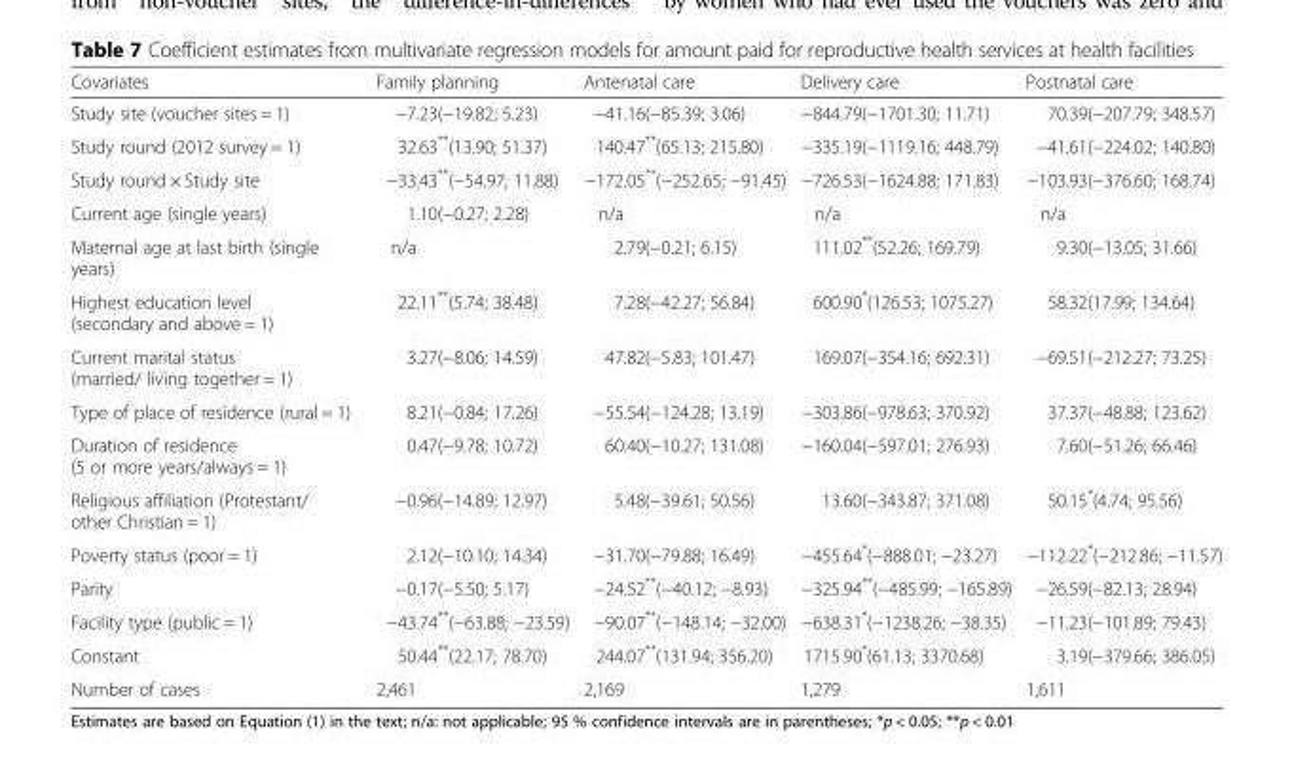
<table><thead><tr><td>Covariates</td><td>Family planning</td><td>Antenatal care</td><td>Delivery care</td><td>Postnatal care</td></tr></thead><tbody><tr><td>Study site (voucher sites = 1)</td><td>−7.23(−19.82; 5.23)</td><td>−41.16(−85.39; 3.06)</td><td>−844.79(−1701.30; 11.71)</td><td>70.39(−207.79; 348.57)</td></tr><tr><td>Study round (2012 survey = 1)</td><td>32.63**(13.90; 51.37)</td><td>140.47**(65.13; 215.80)</td><td>−335.19(−1119.16; 448.79)</td><td>−41.61(−224.02; 140.80)</td></tr><tr><td>Study round × Study site</td><td>−33.43**(−54.97; 11.88)</td><td>−172.05**(−252.65; −91.45)</td><td>−726.53(−1624.88; 171.83)</td><td>−103.93(−376.60; 168.74)</td></tr><tr><td>Current age (single years)</td><td>1.10(−0.27; 2.28)</td><td>n/a</td><td>n/a</td><td>n/a</td></tr><tr><td>Maternal age at last birth (single years)</td><td>n/a</td><td>2.79(−0.21; 6.15)</td><td>111.02**(52.26; 169.79)</td><td>9.30(−13.05; 31.66)</td></tr><tr><td>Highest education level (secondary and above = 1)</td><td>22.11**(5.74; 38.48)</td><td>7.28(−42.27; 56.84)</td><td>600.90*(126.53; 1075.27)</td><td>58.32(17.99; 134.64)</td></tr><tr><td>Current marital status (married/ living together = 1)</td><td>3.27(−8.06; 14.59)</td><td>47.82(−5.83; 101.47)</td><td>169.07(−354.16; 692.31)</td><td>−69.51(−212.27; 73.25)</td></tr><tr><td>Type of place of residence (rural = 1)</td><td>8.21(−0.84; 17.26)</td><td>−55.54(−124.28; 13.19)</td><td>−303.86(−978.63; 370.92)</td><td>37.37(−48.88; 123.62)</td></tr><tr><td>Duration of residence (5 or more years/always = 1)</td><td>0.47(−9.78; 10.72)</td><td>60.40(−10.27; 131.08)</td><td>−160.04(−597.01; 276.93)</td><td>7.60(−51.26; 66.46)</td></tr><tr><td>Religious affiliation (Protestant/ other Christian = 1)</td><td>−0.96(−14.89; 12.97)</td><td>5.48(−39.61; 50.56)</td><td>13.60(−343.87; 371.08)</td><td>50.15*(4.74; 95.56)</td></tr><tr><td>Poverty status (poor = 1)</td><td>2.12(−10.10; 14.34)</td><td>−31.70(−79.88; 16.49)</td><td>−455.64*(−888.01; −23.27)</td><td>−112.22*(−212.86; −11.57)</td></tr><tr><td>Parity</td><td>−0.17(−5.50; 5.17)</td><td>−24.52**(−40.12; −8.93)</td><td>−325.94**(−485.99; −165.89)</td><td>−26.59(−82.13; 28.94)</td></tr><tr><td>Facility type (public = 1)</td><td>−43.74**(−63.88; −23.59)</td><td>−90.07**(−148.14; −32.00)</td><td>−638.31*(−1238.26; −38.35)</td><td>−11.23(−101.89; 79.43)</td></tr><tr><td>Constant</td><td>50.44**(22.17; 78.70)</td><td>244.07**(131.94; 356.20)</td><td>1715.90*(61.13; 3370.68)</td><td>3.19(−379.66; 386.05)</td></tr><tr><td>Number of cases</td><td>2,461</td><td>2,169</td><td>1,279</td><td>1,611</td></tr></tbody></table>